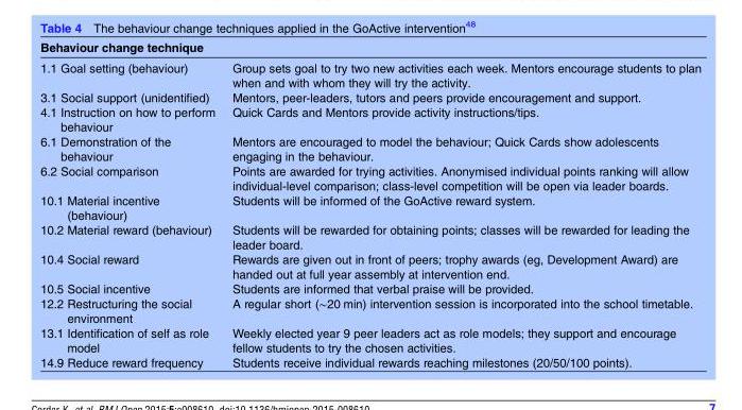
<table><thead><tr><td>Behaviour change technique</td><td></td></tr></thead><tbody><tr><td>1.1 Goal setting (behaviour)</td><td>Group sets goal to try two new activities each week. Mentors encourage students to plan when and with whom they will try the activity.</td></tr><tr><td>3.1 Social support (unidentified)</td><td>Mentors, peer-leaders, tutors and peers provide encouragement and support.</td></tr><tr><td>4.1 Instruction on how to perform behaviour</td><td>Quick Cards and Mentors provide activity instructions/tips.</td></tr><tr><td>6.1 Demonstration of the behaviour</td><td>Mentors are encouraged to model the behaviour; Quick Cards show adolescents engaging in the behaviour.</td></tr><tr><td>6.2 Social comparison</td><td>Points are awarded for trying activities. Anonymised individual points ranking will allow individual-level comparison; class-level competition will be open via leader boards.</td></tr><tr><td>10.1 Material incentive (behaviour)</td><td>Students will be informed of the GoActive reward system.</td></tr><tr><td>10.2 Material reward (behaviour)</td><td>Students will be rewarded for obtaining points; classes will be rewarded for leading the leader board.</td></tr><tr><td>10.4 Social reward</td><td>Rewards are given out in front of peers; trophy awards (eg, Development Award) are handed out at full year assembly at intervention end.</td></tr><tr><td>10.5 Social incentive</td><td>Students are informed that verbal praise will be provided.</td></tr><tr><td>12.2 Restructuring the social environment</td><td>A regular short (∼20 min) intervention session is incorporated into the school timetable.</td></tr><tr><td>13.1 Identification of self as role model</td><td>Weekly elected year 9 peer leaders act as role models; they support and encourage fellow students to try the chosen activities.</td></tr><tr><td>14.9 Reduce reward frequency</td><td>Students receive individual rewards reaching milestones (20/50/100 points).</td></tr></tbody></table>